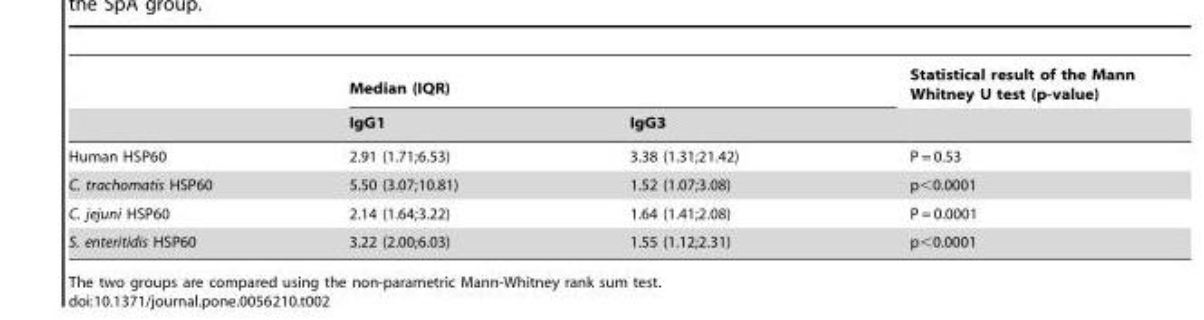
<table><thead><tr><td rowspan="2"></td><td colspan="2">Median (IQR)</td><td rowspan="2">Statistical result of the Mann Whitney U test (p-value)</td></tr><tr><td>IgG1</td><td>IgG3</td></tr></thead><tbody><tr><td>Human HSP60</td><td>2.91 (1.71;6.53)</td><td>3.38 (1.31;21.42)</td><td>P = 0.53</td></tr><tr><td>C. trachomatis HSP60</td><td>5.50 (3.07;10.81)</td><td>1.52 (1.07;3.08)</td><td>p&lt;0.0001</td></tr><tr><td>C. jejuni HSP60</td><td>2.14 (1.64;3.22)</td><td>1.64 (1.41;2.08)</td><td>P = 0.0001</td></tr><tr><td>S. enteritidis HSP60</td><td>3.22 (2.00;6.03)</td><td>1.55 (1.12;2.31)</td><td>p&lt;0.0001</td></tr></tbody></table>